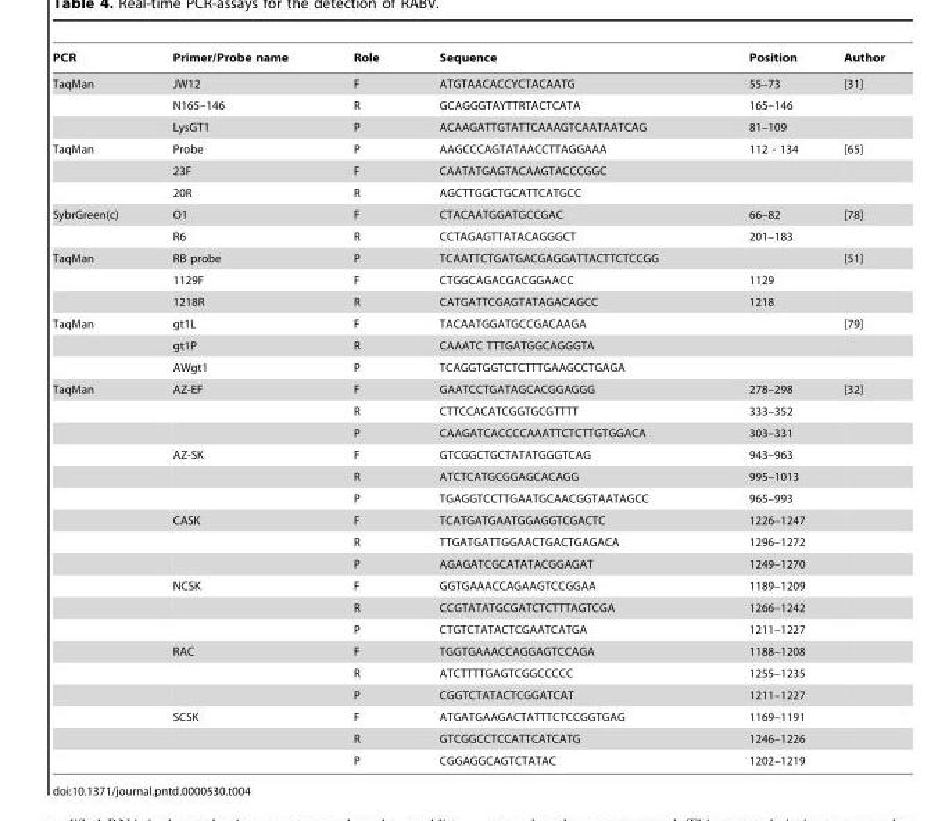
<table><thead><tr><td>PCR</td><td>Primer/Probe name</td><td>Role</td><td>Sequence</td><td>Position</td><td>Author</td></tr></thead><tbody><tr><td rowspan="3">TaqMan</td><td>JW12</td><td>F</td><td>ATGTAACACCYCTACAATG</td><td>55–73</td><td>[31]</td></tr><tr><td>N165–146</td><td>R</td><td>GCAGGGTAYTTRTACTCATA</td><td>165–146</td><td></td></tr><tr><td>LysGT1</td><td>P</td><td>ACAAGATTGTATTCAAAGTCAATAATCAG</td><td>81–109</td><td></td></tr><tr><td rowspan="3">TaqMan</td><td>Probe</td><td>P</td><td>AAGCCCAGTATAACCTTAGGAAA</td><td>112 - 134</td><td>[65]</td></tr><tr><td>23F</td><td>F</td><td>CAATATGAGTACAAGTACCCGGC</td><td></td><td></td></tr><tr><td>20R</td><td>R</td><td>AGCTTGGCTGCATTCATGCC</td><td></td><td></td></tr><tr><td rowspan="2">SybrGreen(c)</td><td>O1</td><td>F</td><td>CTACAATGGATGCCGAC</td><td>66–82</td><td>[78]</td></tr><tr><td>R6</td><td>R</td><td>CCTAGAGTTATACAGGGCT</td><td>201–183</td><td></td></tr><tr><td rowspan="3">TaqMan</td><td>RB probe</td><td>P</td><td>TCAATTCTGATGACGAGGATTACTTCTCCGG</td><td></td><td>[51]</td></tr><tr><td>1129F</td><td>F</td><td>CTGGCAGACGACGGAACC</td><td>1129</td><td></td></tr><tr><td>1218R</td><td>R</td><td>CATGATTCGAGTATAGACAGCC</td><td>1218</td><td></td></tr><tr><td rowspan="3">TaqMan</td><td>gt1L</td><td>F</td><td>TACAATGGATGCCGACAAGA</td><td></td><td>[79]</td></tr><tr><td>gt1P</td><td>R</td><td>CAAATC TTTGATGGCAGGGTA</td><td></td><td></td></tr><tr><td>AWgt1</td><td>P</td><td>TCAGGTGGTCTCTTTGAAGCCTGAGA</td><td></td><td></td></tr><tr><td rowspan="18">TaqMan</td><td>AZ-EF</td><td>F</td><td>GAATCCTGATAGCACGGAGGG</td><td>278–298</td><td>[32]</td></tr><tr><td></td><td>R</td><td>CTTCCACATCGGTGCGTTTT</td><td>333–352</td><td></td></tr><tr><td></td><td>P</td><td>CAAGATCACCCCAAATTCTCTTGTGGACA</td><td>303–331</td><td></td></tr><tr><td>AZ-SK</td><td>F</td><td>GTCGGCTGCTATATGGGTCAG</td><td>943–963</td><td></td></tr><tr><td></td><td>R</td><td>ATCTCATGCGGAGCACAGG</td><td>995–1013</td><td></td></tr><tr><td></td><td>P</td><td>TGAGGTCCTTGAATGCAACGGTAATAGCC</td><td>965–993</td><td></td></tr><tr><td>CASK</td><td>F</td><td>TCATGATGAATGGAGGTCGACTC</td><td>1226–1247</td><td></td></tr><tr><td></td><td>R</td><td>TTGATGATTGGAACTGACTGAGACA</td><td>1296–1272</td><td></td></tr><tr><td></td><td>P</td><td>AGAGATCGCATATACGGAGAT</td><td>1249–1270</td><td></td></tr><tr><td>NCSK</td><td>F</td><td>GGTGAAACCAGAAGTCCGGAA</td><td>1189–1209</td><td></td></tr><tr><td></td><td>R</td><td>CCGTATATGCGATCTCTTTAGTCGA</td><td>1266–1242</td><td></td></tr><tr><td></td><td>P</td><td>CTGTCTATACTCGAATCATGA</td><td>1211–1227</td><td></td></tr><tr><td>RAC</td><td>F</td><td>TGGTGAAACCAGGAGTCCAGA</td><td>1188–1208</td><td></td></tr><tr><td></td><td>R</td><td>ATCTTTTGAGTCGGCCCCC</td><td>1255–1235</td><td></td></tr><tr><td></td><td>P</td><td>CGGTCTATACTCGGATCAT</td><td>1211–1227</td><td></td></tr><tr><td>SCSK</td><td>F</td><td>ATGATGAAGACTATTTCTCCGGTGAG</td><td>1169–1191</td><td></td></tr><tr><td></td><td>R</td><td>GTCGGCCTCCATTCATCATG</td><td>1246–1226</td><td></td></tr><tr><td></td><td>P</td><td>CGGAGGCAGTCTATAC</td><td>1202–1219</td><td></td></tr></tbody></table>